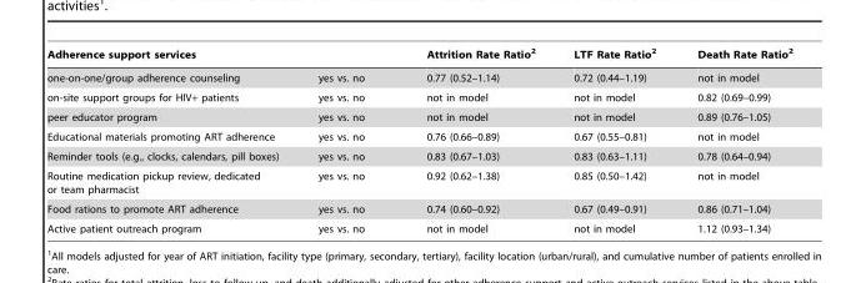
<table><thead><tr><td>Adherence support services</td><td></td><td>Attrition Rate Ratio<sup>2</sup></td><td>LTF Rate Ratio<sup>2</sup></td><td>Death Rate Ratio<sup>2</sup></td></tr></thead><tbody><tr><td>one-on-one/group adherence counseling</td><td>yes vs. no</td><td>0.77 (0.52–1.14)</td><td>0.72 (0.44–1.19)</td><td>not in model</td></tr><tr><td>on-site support groups for HIV+ patients</td><td>yes vs. no</td><td>not in model</td><td>not in model</td><td>0.82 (0.69–0.99)</td></tr><tr><td>peer educator program</td><td>yes vs. no</td><td>not in model</td><td>not in model</td><td>0.89 (0.76–1.05)</td></tr><tr><td>Educational materials promoting ART adherence</td><td>yes vs. no</td><td>0.76 (0.66–0.89)</td><td>0.67 (0.55–0.81)</td><td>not in model</td></tr><tr><td>Reminder tools (e.g., clocks, calendars, pill boxes)</td><td>yes vs. no</td><td>0.83 (0.67–1.03)</td><td>0.83 (0.63–1.11)</td><td>0.78 (0.64–0.94)</td></tr><tr><td>Routine medication pickup review, dedicated or team pharmacist</td><td>yes vs. no</td><td>0.92 (0.62–1.38)</td><td>0.85 (0.50–1.42)</td><td>not in model</td></tr><tr><td>Food rations to promote ART adherence</td><td>yes vs. no</td><td>0.74 (0.60–0.92)</td><td>0.67 (0.49–0.91)</td><td>0.86 (0.71–1.04)</td></tr><tr><td>Active patient outreach program</td><td>yes vs. no</td><td>not in model</td><td>not in model</td><td>1.12 (0.93–1.34)</td></tr></tbody></table>